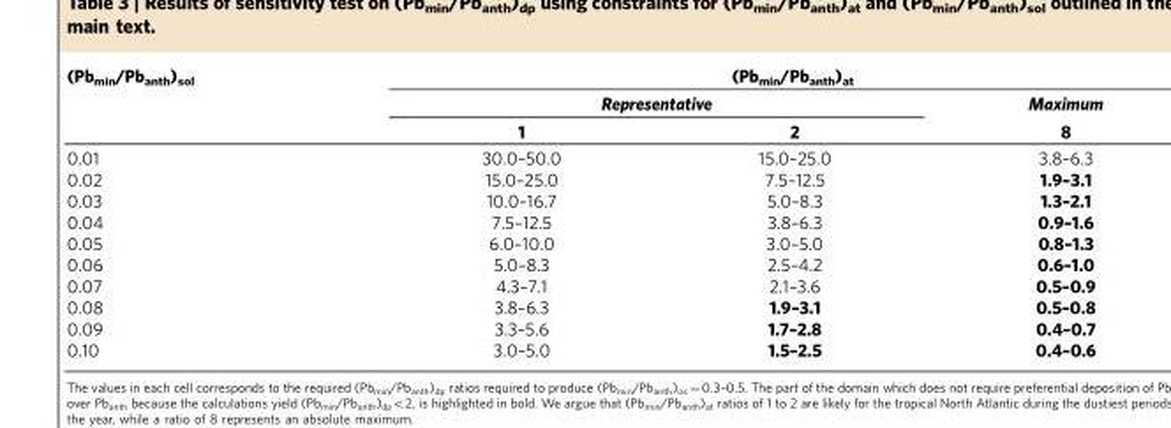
<table><thead><tr><td rowspan="3">(Pb<sub>min</sub>/Pb<sub>anth</sub>)<sub>sol</sub></td><td colspan="3">(Pb<sub>min</sub>/Pb<sub>anth</sub>)<sub>at</sub></td></tr><tr><td colspan="2">Representative</td><td rowspan="2">Maximum 8</td></tr><tr><td>1</td><td>2</td></tr></thead><tbody><tr><td>0.01</td><td>30.0–50.0</td><td>15.0–25.0</td><td>3.8–6.3</td></tr><tr><td>0.02</td><td>15.0–25.0</td><td>7.5–12.5</td><td>1.9–3.1</td></tr><tr><td>0.03</td><td>10.0–16.7</td><td>5.0–8.3</td><td>1.3–2.1</td></tr><tr><td>0.04</td><td>7.5–12.5</td><td>3.8–6.3</td><td>0.9–1.6</td></tr><tr><td>0.05</td><td>6.0–10.0</td><td>3.0–5.0</td><td>0.8–1.3</td></tr><tr><td>0.06</td><td>5.0–8.3</td><td>2.5–4.2</td><td>0.6–1.0</td></tr><tr><td>0.07</td><td>4.3–7.1</td><td>2.1–3.6</td><td>0.5–0.9</td></tr><tr><td>0.08</td><td>3.8–6.3</td><td>1.9–3.1</td><td>0.5–0.8</td></tr><tr><td>0.09</td><td>3.3–5.6</td><td>1.7–2.8</td><td>0.4–0.7</td></tr><tr><td>0.10</td><td>3.0–5.0</td><td>1.5–2.5</td><td>0.4–0.6</td></tr></tbody></table>